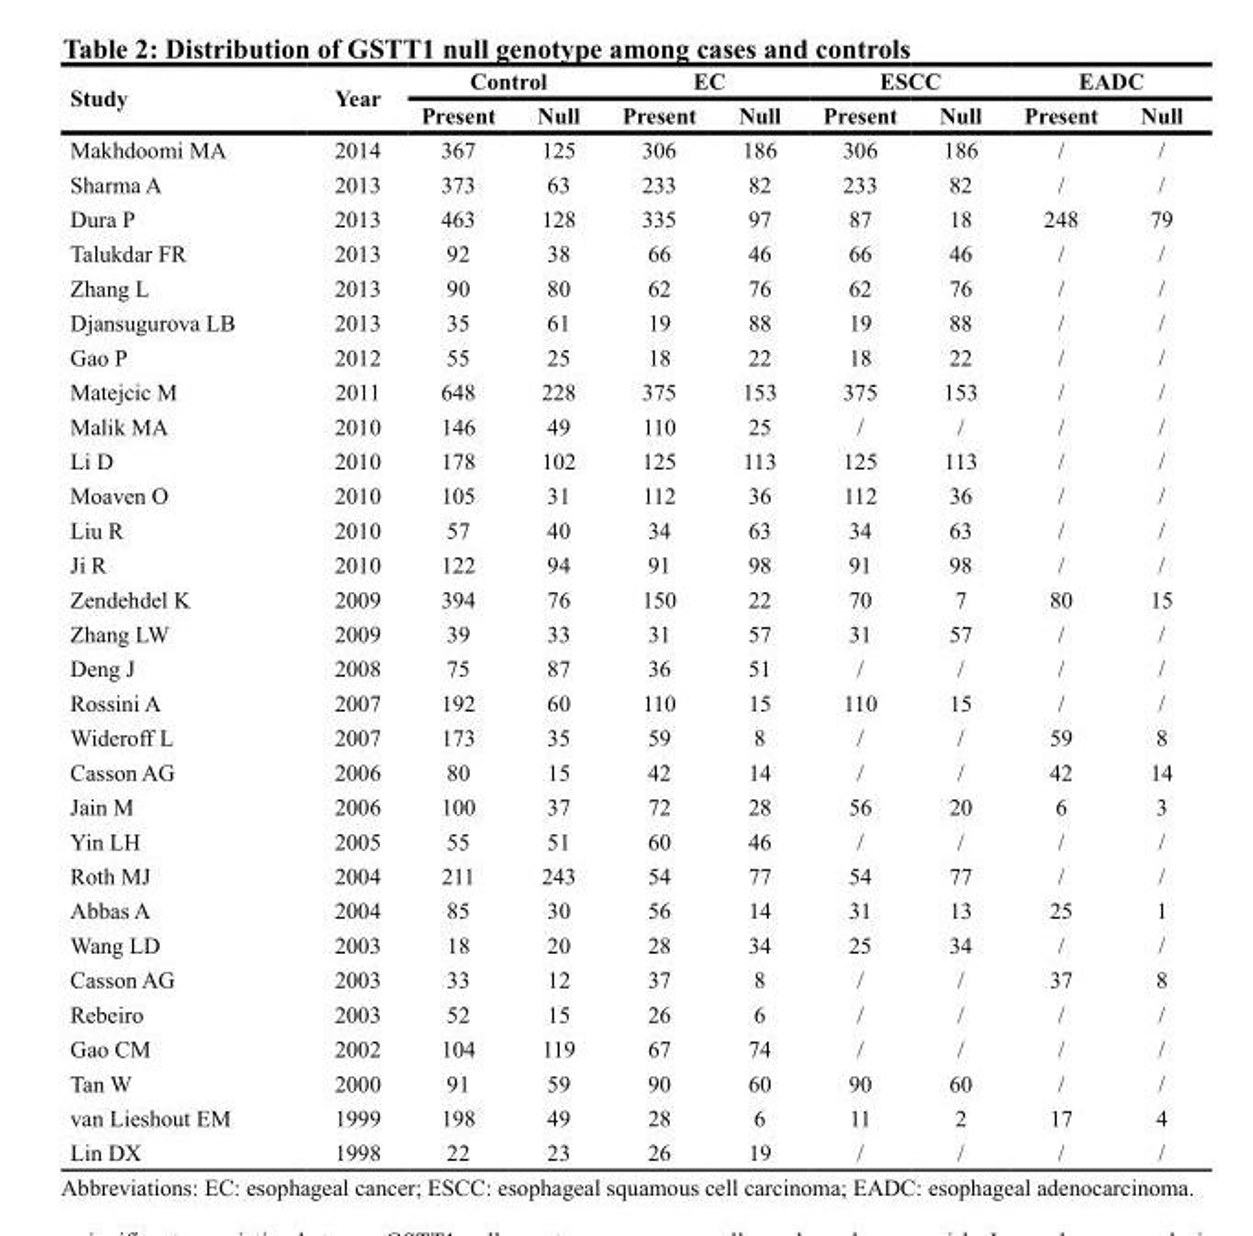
<table><thead><tr><td rowspan="2">Study</td><td rowspan="2">Year</td><td colspan="2">Control</td><td colspan="2">EC</td><td colspan="2">ESCC</td><td colspan="2">EADC</td></tr><tr><td>Present</td><td>Null</td><td>Present</td><td>Null</td><td>Present</td><td>Null</td><td>Present</td><td>Null</td></tr></thead><tbody><tr><td>Makhdoomi MA</td><td>2014</td><td>367</td><td>125</td><td>306</td><td>186</td><td>306</td><td>186</td><td>/</td><td>/</td></tr><tr><td>Sharma A</td><td>2013</td><td>373</td><td>63</td><td>233</td><td>82</td><td>233</td><td>82</td><td>/</td><td>/</td></tr><tr><td>Dura P</td><td>2013</td><td>463</td><td>128</td><td>335</td><td>97</td><td>87</td><td>18</td><td>248</td><td>79</td></tr><tr><td>Talukdar FR</td><td>2013</td><td>92</td><td>38</td><td>66</td><td>46</td><td>66</td><td>46</td><td>/</td><td>/</td></tr><tr><td>Zhang L</td><td>2013</td><td>90</td><td>80</td><td>62</td><td>76</td><td>62</td><td>76</td><td>/</td><td>/</td></tr><tr><td>Djansugurova LB</td><td>2013</td><td>35</td><td>61</td><td>19</td><td>88</td><td>19</td><td>88</td><td>/</td><td>/</td></tr><tr><td>Gao P</td><td>2012</td><td>55</td><td>25</td><td>18</td><td>22</td><td>18</td><td>22</td><td>/</td><td>/</td></tr><tr><td>Matejcic M</td><td>2011</td><td>648</td><td>228</td><td>375</td><td>153</td><td>375</td><td>153</td><td>/</td><td>/</td></tr><tr><td>Malik MA</td><td>2010</td><td>146</td><td>49</td><td>110</td><td>25</td><td>/</td><td>/</td><td>/</td><td>/</td></tr><tr><td>Li D</td><td>2010</td><td>178</td><td>102</td><td>125</td><td>113</td><td>125</td><td>113</td><td>/</td><td>/</td></tr><tr><td>Moaven O</td><td>2010</td><td>105</td><td>31</td><td>112</td><td>36</td><td>112</td><td>36</td><td>/</td><td>/</td></tr><tr><td>Liu R</td><td>2010</td><td>57</td><td>40</td><td>34</td><td>63</td><td>34</td><td>63</td><td>/</td><td>/</td></tr><tr><td>Ji R</td><td>2010</td><td>122</td><td>94</td><td>91</td><td>98</td><td>91</td><td>98</td><td>/</td><td>/</td></tr><tr><td>Zendehdel K</td><td>2009</td><td>394</td><td>76</td><td>150</td><td>22</td><td>70</td><td>7</td><td>80</td><td>15</td></tr><tr><td>Zhang LW</td><td>2009</td><td>39</td><td>33</td><td>31</td><td>57</td><td>31</td><td>57</td><td>/</td><td>/</td></tr><tr><td>Deng J</td><td>2008</td><td>75</td><td>87</td><td>36</td><td>51</td><td>/</td><td>/</td><td>/</td><td>/</td></tr><tr><td>Rossini A</td><td>2007</td><td>192</td><td>60</td><td>110</td><td>15</td><td>110</td><td>15</td><td>/</td><td>/</td></tr><tr><td>Wideroff L</td><td>2007</td><td>173</td><td>35</td><td>59</td><td>8</td><td>/</td><td>/</td><td>59</td><td>8</td></tr><tr><td>Casson AG</td><td>2006</td><td>80</td><td>15</td><td>42</td><td>14</td><td>/</td><td>/</td><td>42</td><td>14</td></tr><tr><td>Jain M</td><td>2006</td><td>100</td><td>37</td><td>72</td><td>28</td><td>56</td><td>20</td><td>6</td><td>3</td></tr><tr><td>Yin LH</td><td>2005</td><td>55</td><td>51</td><td>60</td><td>46</td><td>/</td><td>/</td><td>/</td><td>/</td></tr><tr><td>Roth MJ</td><td>2004</td><td>211</td><td>243</td><td>54</td><td>77</td><td>54</td><td>77</td><td>/</td><td>/</td></tr><tr><td>Abbas A</td><td>2004</td><td>85</td><td>30</td><td>56</td><td>14</td><td>31</td><td>13</td><td>25</td><td>1</td></tr><tr><td>Wang LD</td><td>2003</td><td>18</td><td>20</td><td>28</td><td>34</td><td>25</td><td>34</td><td>/</td><td>/</td></tr><tr><td>Casson AG</td><td>2003</td><td>33</td><td>12</td><td>37</td><td>8</td><td>/</td><td>/</td><td>37</td><td>8</td></tr><tr><td>Rebeiro</td><td>2003</td><td>52</td><td>15</td><td>26</td><td>6</td><td>/</td><td>/</td><td>/</td><td>/</td></tr><tr><td>Gao CM</td><td>2002</td><td>104</td><td>119</td><td>67</td><td>74</td><td>/</td><td>/</td><td>/</td><td>/</td></tr><tr><td>Tan W</td><td>2000</td><td>91</td><td>59</td><td>90</td><td>60</td><td>90</td><td>60</td><td>/</td><td>/</td></tr><tr><td>van Lieshout EM</td><td>1999</td><td>198</td><td>49</td><td>28</td><td>6</td><td>11</td><td>2</td><td>17</td><td>4</td></tr><tr><td>Lin DX</td><td>1998</td><td>22</td><td>23</td><td>26</td><td>19</td><td>/</td><td>/</td><td>/</td><td>/</td></tr></tbody></table>